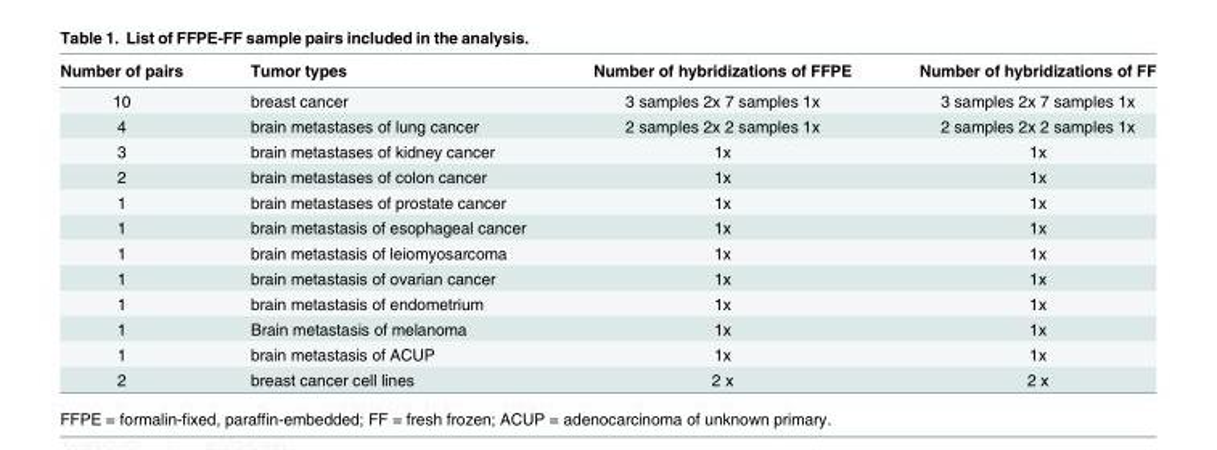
<table><thead><tr><td>Number of pairs</td><td>Tumor types</td><td>Number of hybridizations of FFPE</td><td>Number of hybridizations of FF</td></tr></thead><tbody><tr><td>10</td><td>breast cancer</td><td>3 samples 2x 7 samples 1x</td><td>3 samples 2x 7 samples 1x</td></tr><tr><td>4</td><td>brain metastases of lung cancer</td><td>2 samples 2x 2 samples 1x</td><td>2 samples 2x 2 samples 1x</td></tr><tr><td>3</td><td>brain metastases of kidney cancer</td><td>1x</td><td>1x</td></tr><tr><td>2</td><td>brain metastases of colon cancer</td><td>1x</td><td>1x</td></tr><tr><td>1</td><td>brain metastases of prostate cancer</td><td>1x</td><td>1x</td></tr><tr><td>1</td><td>brain metastasis of esophageal cancer</td><td>1x</td><td>1x</td></tr><tr><td>1</td><td>brain metastasis of leiomyosarcoma</td><td>1x</td><td>1x</td></tr><tr><td>1</td><td>brain metastasis of ovarian cancer</td><td>1x</td><td>1x</td></tr><tr><td>1</td><td>brain metastasis of endometrium</td><td>1x</td><td>1x</td></tr><tr><td>1</td><td>Brain metastasis of melanoma</td><td>1x</td><td>1x</td></tr><tr><td>1</td><td>brain metastasis of ACUP</td><td>1x</td><td>1x</td></tr><tr><td>2</td><td>breast cancer cell lines</td><td>2 x</td><td>2 x</td></tr></tbody></table>